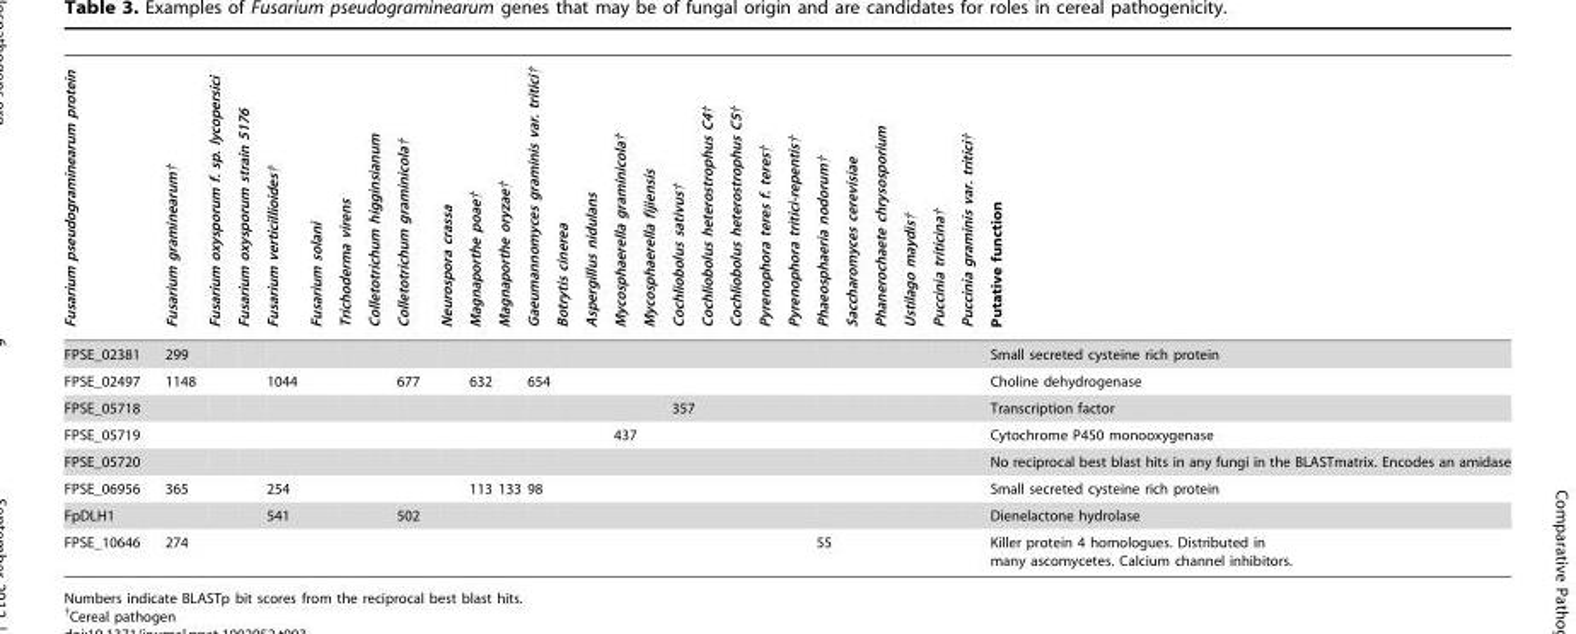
<table><thead><tr><td>Fusarium pseudograminearum protein</td><td>Fusarium graminearum†</td><td>Fusarium oxysporum f. sp. lycopersici</td><td>Fusarium oxysporum strain 5176</td><td>Fusarium verticillioides†</td><td>Fusarium solani</td><td>Trichoderma virens</td><td>Colletotrichum higginsianum</td><td>Colletotrichum graminicola†</td><td>Neurospora crassa</td><td>Magnaporthe poae†</td><td>Magnaporthe oryzae†</td><td>Gaeumannomyces graminis var. tritici†</td><td>Botrytis cinerea</td><td>Aspergillus nidulans</td><td>Mycosphaerella graminicola†</td><td>Mycosphaerella fijiensis</td><td>Cochliobolus sativus†</td><td>Cochliobolus heterostrophus C4†</td><td>Cochliobolus heterostrophus C5†</td><td>Pyrenophora teres f. teres†</td><td>Pyrenophora tritici-repentis†</td><td>Phaeosphaeria nodorum†</td><td>Saccharomyces cerevisiae</td><td>Phanerochaete chrysosporium</td><td>Ustilago maydis†</td><td>Puccinia triticina†</td><td>Puccinia graminis var. tritici†</td><td>Putative function</td></tr></thead><tbody><tr><td>FPSE_02381</td><td>299</td><td></td><td></td><td></td><td></td><td></td><td></td><td></td><td></td><td></td><td></td><td></td><td></td><td></td><td></td><td></td><td></td><td></td><td></td><td></td><td></td><td></td><td></td><td></td><td></td><td></td><td></td><td>Small secreted cysteine rich protein</td></tr><tr><td>FPSE_02497</td><td>1148</td><td></td><td></td><td>1044</td><td></td><td></td><td></td><td>677</td><td></td><td>632</td><td></td><td>654</td><td></td><td></td><td></td><td></td><td></td><td></td><td></td><td></td><td></td><td></td><td></td><td></td><td></td><td></td><td></td><td>Choline dehydrogenase</td></tr><tr><td>FPSE_05718</td><td></td><td></td><td></td><td></td><td></td><td></td><td></td><td></td><td></td><td></td><td></td><td></td><td></td><td></td><td></td><td></td><td>357</td><td></td><td></td><td></td><td></td><td></td><td></td><td></td><td></td><td></td><td></td><td>Transcription factor</td></tr><tr><td>FPSE_05719</td><td></td><td></td><td></td><td></td><td></td><td></td><td></td><td></td><td></td><td></td><td></td><td></td><td></td><td></td><td>437</td><td></td><td></td><td></td><td></td><td></td><td></td><td></td><td></td><td></td><td></td><td></td><td></td><td>Cytochrome P450 monooxygenase</td></tr><tr><td>FPSE_05720</td><td></td><td></td><td></td><td></td><td></td><td></td><td></td><td></td><td></td><td></td><td></td><td></td><td></td><td></td><td></td><td></td><td></td><td></td><td></td><td></td><td></td><td></td><td></td><td></td><td></td><td></td><td></td><td>No reciprocal best blast hits in any fungi in the BLASTmatrix. Encodes an amidase</td></tr><tr><td>FPSE_06956</td><td>365</td><td></td><td></td><td>254</td><td></td><td></td><td></td><td></td><td></td><td>113</td><td>133</td><td>98</td><td></td><td></td><td></td><td></td><td></td><td></td><td></td><td></td><td></td><td></td><td></td><td></td><td></td><td></td><td></td><td>Small secreted cysteine rich protein</td></tr><tr><td>FpDLH1</td><td></td><td></td><td></td><td>541</td><td></td><td></td><td></td><td>502</td><td></td><td></td><td></td><td></td><td></td><td></td><td></td><td></td><td></td><td></td><td></td><td></td><td></td><td></td><td></td><td></td><td></td><td></td><td></td><td>Dienelactone hydrolase</td></tr><tr><td>FPSE_10646</td><td>274</td><td></td><td></td><td></td><td></td><td></td><td></td><td></td><td></td><td></td><td></td><td></td><td></td><td></td><td></td><td></td><td></td><td></td><td></td><td></td><td></td><td>55</td><td></td><td></td><td></td><td></td><td></td><td>Killer protein 4 homologues. Distributed in many ascomycetes. Calcium channel inhibitors.</td></tr></tbody></table>